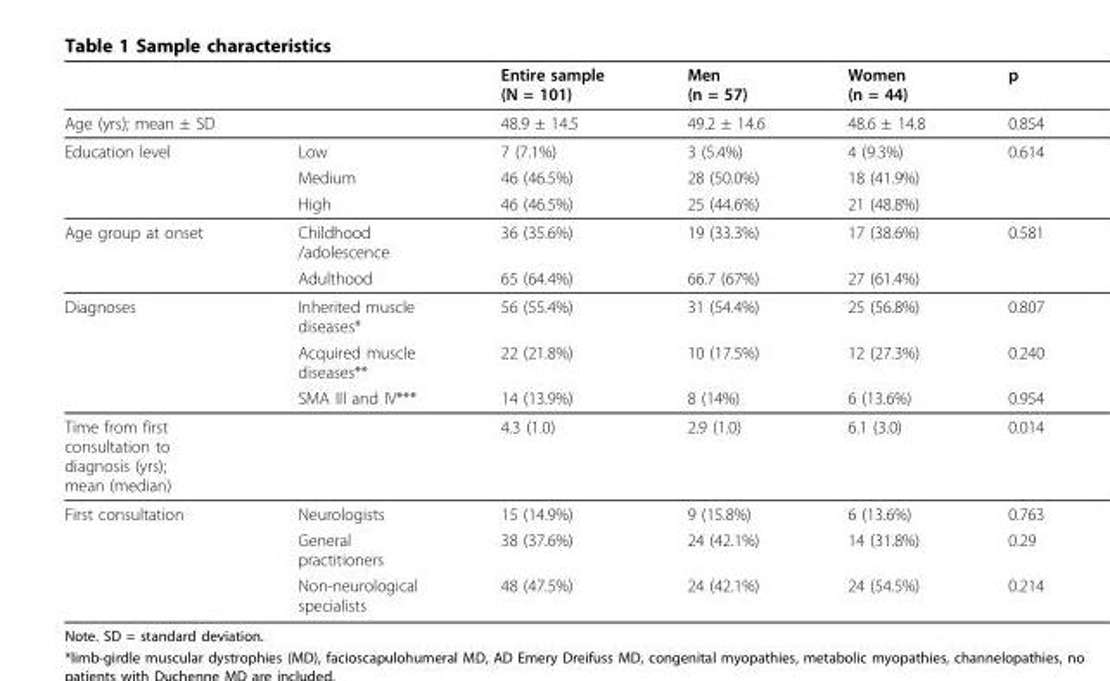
<table><thead><tr><td></td><td></td><td>Entire sample (N = 101)</td><td>Men (n = 57)</td><td>Women (n = 44)</td><td>p</td></tr></thead><tbody><tr><td>Age (yrs); mean ± SD</td><td></td><td>48.9 ± 14.5</td><td>49.2 ± 14.6</td><td>48.6 ± 14.8</td><td>0.854</td></tr><tr><td rowspan="3">Education level</td><td>Low</td><td>7 (7.1%)</td><td>3 (5.4%)</td><td>4 (9.3%)</td><td>0.614</td></tr><tr><td>Medium</td><td>46 (46.5%)</td><td>28 (50.0%)</td><td>18 (41.9%)</td><td></td></tr><tr><td>High</td><td>46 (46.5%)</td><td>25 (44.6%)</td><td>21 (48.8%)</td><td></td></tr><tr><td rowspan="2">Age group at onset</td><td>Childhood /adolescence</td><td>36 (35.6%)</td><td>19 (33.3%)</td><td>17 (38.6%)</td><td>0.581</td></tr><tr><td>Adulthood</td><td>65 (64.4%)</td><td>66.7 (67%)</td><td>27 (61.4%)</td><td></td></tr><tr><td rowspan="3">Diagnoses</td><td>Inherited muscle diseases*</td><td>56 (55.4%)</td><td>31 (54.4%)</td><td>25 (56.8%)</td><td>0.807</td></tr><tr><td>Acquired muscle diseases**</td><td>22 (21.8%)</td><td>10 (17.5%)</td><td>12 (27.3%)</td><td>0.240</td></tr><tr><td>SMA III and IV***</td><td>14 (13.9%)</td><td>8 (14%)</td><td>6 (13.6%)</td><td>0.954</td></tr><tr><td>Time from first consultation to diagnosis (yrs); mean (median)</td><td></td><td>4.3 (1.0)</td><td>2.9 (1.0)</td><td>6.1 (3.0)</td><td>0.014</td></tr><tr><td rowspan="3">First consultation</td><td>Neurologists</td><td>15 (14.9%)</td><td>9 (15.8%)</td><td>6 (13.6%)</td><td>0.763</td></tr><tr><td>General practitioners</td><td>38 (37.6%)</td><td>24 (42.1%)</td><td>14 (31.8%)</td><td>0.29</td></tr><tr><td>Non-neurological specialists</td><td>48 (47.5%)</td><td>24 (42.1%)</td><td>24 (54.5%)</td><td>0.214</td></tr></tbody></table>